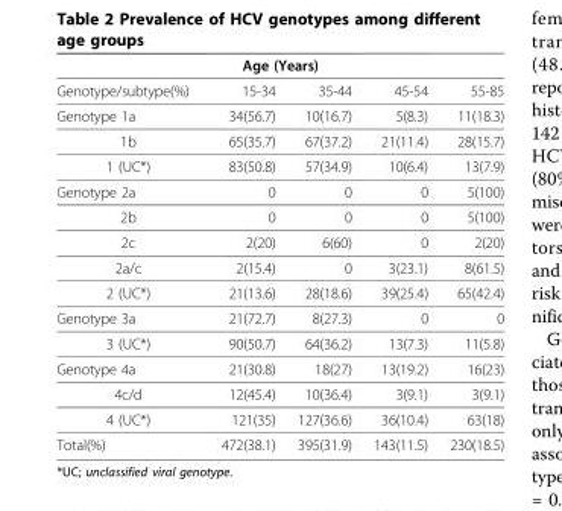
<table><thead><tr><td colspan="5">Age (Years)</td></tr><tr><td>Genotype/subtype(%)</td><td>15-34</td><td>35-44</td><td>45-54</td><td>55-85</td></tr></thead><tbody><tr><td>Genotype 1a</td><td>34(56.7)</td><td>10(16.7)</td><td>5(8.3)</td><td>11(18.3)</td></tr><tr><td>1b</td><td>65(35.7)</td><td>67(37.2)</td><td>21(11.4)</td><td>28(15.7)</td></tr><tr><td>1 (UC*)</td><td>83(50.8)</td><td>57(34.9)</td><td>10(6.4)</td><td>13(7.9)</td></tr><tr><td>Genotype 2a</td><td>0</td><td>0</td><td>0</td><td>5(100)</td></tr><tr><td>2b</td><td>0</td><td>0</td><td>0</td><td>5(100)</td></tr><tr><td>2c</td><td>2(20)</td><td>6(60)</td><td>0</td><td>2(20)</td></tr><tr><td>2a/c</td><td>2(15.4)</td><td>0</td><td>3(23.1)</td><td>8(61.5)</td></tr><tr><td>2 (UC*)</td><td>21(13.6)</td><td>28(18.6)</td><td>39(25.4)</td><td>65(42.4)</td></tr><tr><td>Genotype 3a</td><td>21(72.7)</td><td>8(27.3)</td><td>0</td><td>0</td></tr><tr><td>3 (UC*)</td><td>90(50.7)</td><td>64(36.2)</td><td>13(7.3)</td><td>11(5.8)</td></tr><tr><td>Genotype 4a</td><td>21(30.8)</td><td>18(27)</td><td>13(19.2)</td><td>16(23)</td></tr><tr><td>4c/d</td><td>12(45.4)</td><td>10(36.4)</td><td>3(9.1)</td><td>3(9.1)</td></tr><tr><td>4 (UC*)</td><td>121(35)</td><td>127(36.6)</td><td>36(10.4)</td><td>63(18)</td></tr><tr><td>Total(%)</td><td>472(38.1)</td><td>395(31.9)</td><td>143(11.5)</td><td>230(18.5)</td></tr></tbody></table>